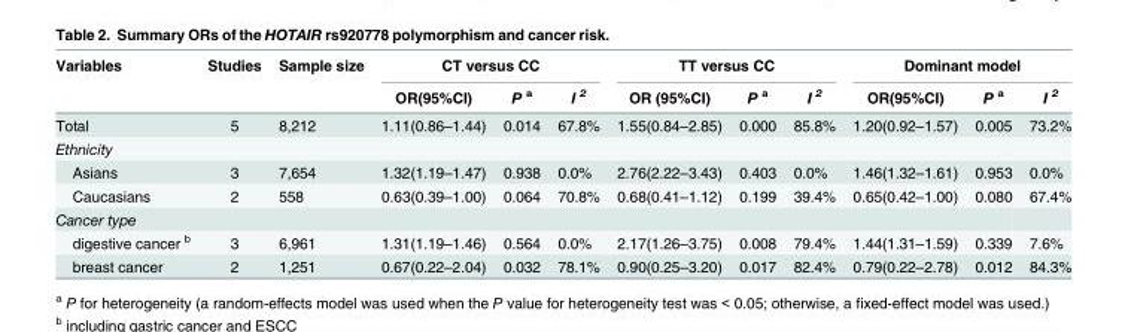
<table><thead><tr><td rowspan="2">Variables</td><td rowspan="2">Studies</td><td rowspan="2">Sample size</td><td colspan="3">CT versus CC</td><td colspan="3">TT versus CC</td><td colspan="3">Dominant model</td></tr><tr><td>OR(95%CI)</td><td>P <sup>a</sup></td><td>I <sup>2</sup></td><td>OR (95%CI)</td><td>P <sup>a</sup></td><td>I <sup>2</sup></td><td>OR(95%CI)</td><td>P <sup>a</sup></td><td>I <sup>2</sup></td></tr></thead><tbody><tr><td>Total</td><td>5</td><td>8,212</td><td>1.11(0.86–1.44)</td><td>0.014</td><td>67.8%</td><td>1.55(0.84–2.85)</td><td>0.000</td><td>85.8%</td><td>1.20(0.92–1.57)</td><td>0.005</td><td>73.2%</td></tr><tr><td colspan="12">Ethnicity</td></tr><tr><td>Asians</td><td>3</td><td>7,654</td><td>1.32(1.19–1.47)</td><td>0.938</td><td>0.0%</td><td>2.76(2.22–3.43)</td><td>0.403</td><td>0.0%</td><td>1.46(1.32–1.61)</td><td>0.953</td><td>0.0%</td></tr><tr><td>Caucasians</td><td>2</td><td>558</td><td>0.63(0.39–1.00)</td><td>0.064</td><td>70.8%</td><td>0.68(0.41–1.12)</td><td>0.199</td><td>39.4%</td><td>0.65(0.42–1.00)</td><td>0.080</td><td>67.4%</td></tr><tr><td colspan="12">Cancer type</td></tr><tr><td>digestive cancer <sup>b</sup></td><td>3</td><td>6,961</td><td>1.31(1.19–1.46)</td><td>0.564</td><td>0.0%</td><td>2.17(1.26–3.75)</td><td>0.008</td><td>79.4%</td><td>1.44(1.31–1.59)</td><td>0.339</td><td>7.6%</td></tr><tr><td>breast cancer</td><td>2</td><td>1,251</td><td>0.67(0.22–2.04)</td><td>0.032</td><td>78.1%</td><td>0.90(0.25–3.20)</td><td>0.017</td><td>82.4%</td><td>0.79(0.22–2.78)</td><td>0.012</td><td>84.3%</td></tr></tbody></table>